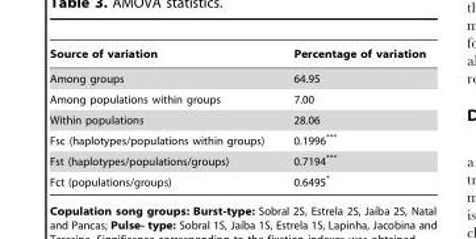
<table><thead><tr><td>Source of variation</td><td>Percentage of variation</td></tr></thead><tbody><tr><td>Among groups</td><td>64.95</td></tr><tr><td>Among populations within groups</td><td>7.00</td></tr><tr><td>Within populations</td><td>28.06</td></tr><tr><td>Fsc (haplotypes/populations within groups)</td><td>0.1996***</td></tr><tr><td>Fst (haplotypes/populations/groups)</td><td>0.7194***</td></tr><tr><td>Fct (populations/groups)</td><td>0.6495*</td></tr></tbody></table>